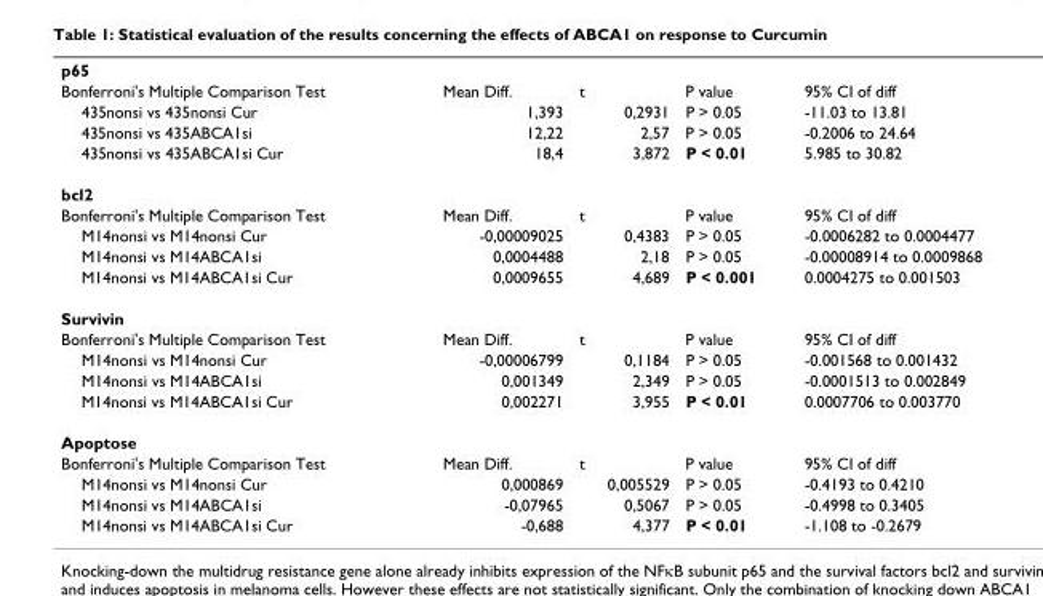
<table><tbody><tr><td colspan="5">p65</td></tr><tr><td>Bonferroni&#x27;s Multiple Comparison Test</td><td>Mean Diff.</td><td>t</td><td>P value</td><td>95% CI of diff</td></tr><tr><td>435nonsi vs 435nonsi Cur</td><td>1,393</td><td>0,2931</td><td>P &gt; 0.05</td><td>-11.03 to 13.81</td></tr><tr><td>435nonsi vs 435ABCA1si</td><td>12,22</td><td>2,57</td><td>P &gt; 0.05</td><td>-0.2006 to 24.64</td></tr><tr><td>435nonsi vs 435ABCA1si Cur</td><td>18,4</td><td>3,872</td><td>P &lt; 0.01</td><td>5.985 to 30.82</td></tr><tr><td colspan="5">bcl2</td></tr><tr><td>Bonferroni&#x27;s Multiple Comparison Test</td><td>Mean Diff.</td><td>t</td><td>P value</td><td>95% CI of diff</td></tr><tr><td>M14nonsi vs M14nonsi Cur</td><td>-0,00009025</td><td>0,4383</td><td>P &gt; 0.05</td><td>-0.0006282 to 0.0004477</td></tr><tr><td>M14nonsi vs M14ABCA1si</td><td>0,0004488</td><td>2,18</td><td>P &gt; 0.05</td><td>-0.00008914 to 0.0009868</td></tr><tr><td>M14nonsi vs M14ABCA1si Cur</td><td>0,0009655</td><td>4,689</td><td>P &lt; 0.001</td><td>0.0004275 to 0.001503</td></tr><tr><td colspan="5">Survivin</td></tr><tr><td>Bonferroni&#x27;s Multiple Comparison Test</td><td>Mean Diff.</td><td>t</td><td>P value</td><td>95% CI of diff</td></tr><tr><td>M14nonsi vs M14nonsi Cur</td><td>-0,00006799</td><td>0,1184</td><td>P &gt; 0.05</td><td>-0.001568 to 0.001432</td></tr><tr><td>M14nonsi vs M14ABCA1si</td><td>0,001349</td><td>2,349</td><td>P &gt; 0.05</td><td>-0.0001513 to 0.002849</td></tr><tr><td>M14nonsi vs M14ABCA1si Cur</td><td>0,002271</td><td>3,955</td><td>P &lt; 0.01</td><td>0.0007706 to 0.003770</td></tr><tr><td colspan="5">Apoptose</td></tr><tr><td>Bonferroni&#x27;s Multiple Comparison Test</td><td>Mean Diff.</td><td>t</td><td>P value</td><td>95% CI of diff</td></tr><tr><td>M14nonsi vs M14nonsi Cur</td><td>0,000869</td><td>0,005529</td><td>P &gt; 0.05</td><td>-0.4193 to 0.4210</td></tr><tr><td>M14nonsi vs M14ABCA1si</td><td>-0,07965</td><td>0,5067</td><td>P &gt; 0.05</td><td>-0.4998 to 0.3405</td></tr><tr><td>M14nonsi vs M14ABCA1si Cur</td><td>-0,688</td><td>4,377</td><td>P &lt; 0.01</td><td>-1.108 to -0.2679</td></tr></tbody></table>